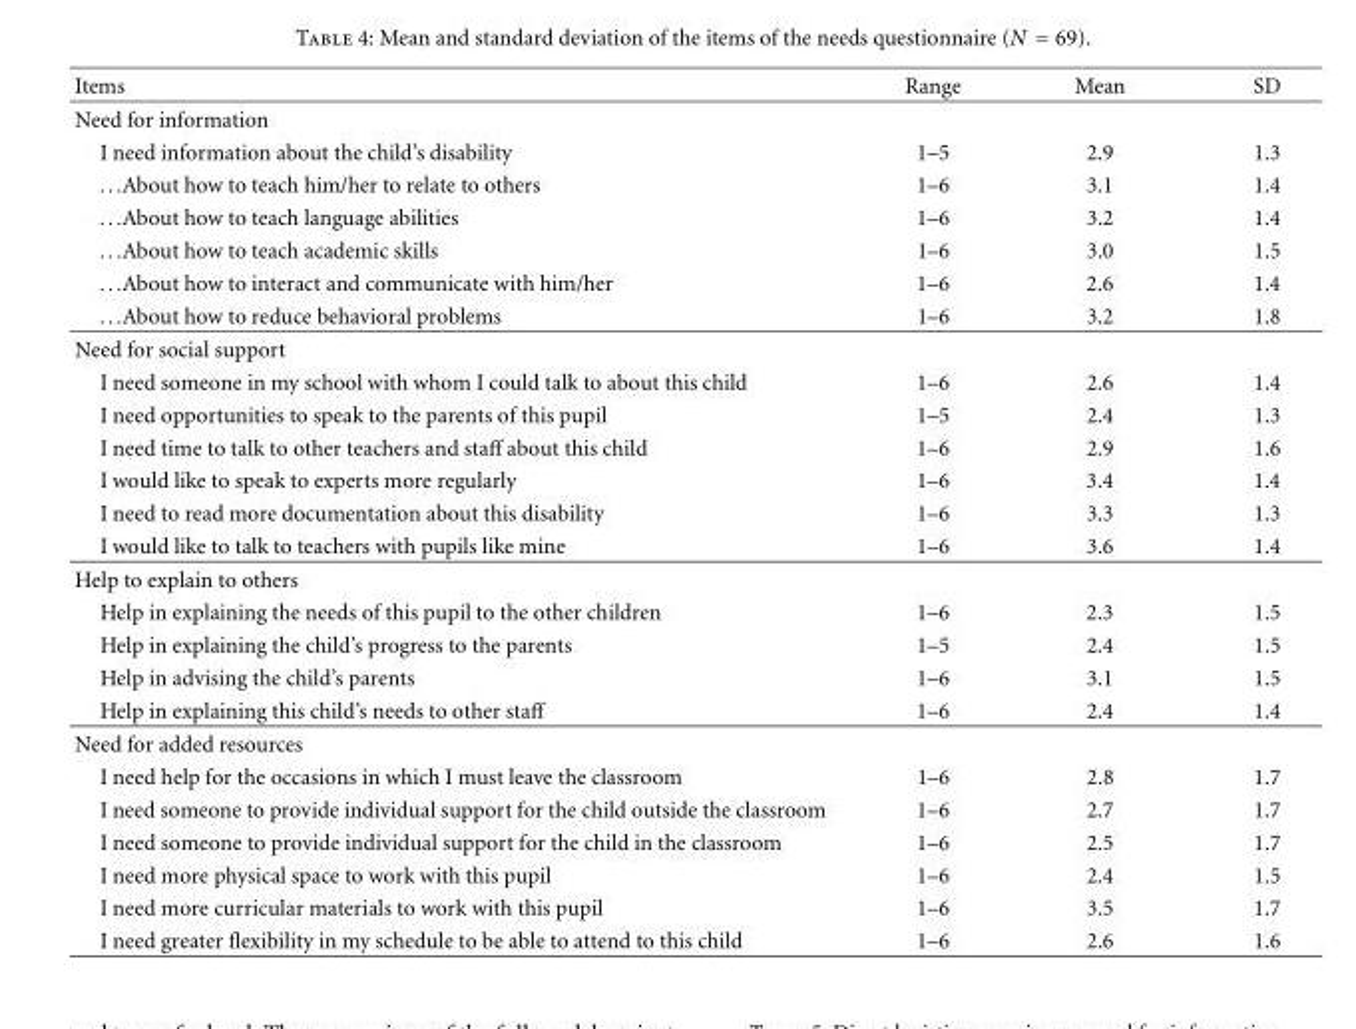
<table><thead><tr><td>Items</td><td>Range</td><td>Mean</td><td>SD</td></tr></thead><tbody><tr><td colspan="4">Need for information</td></tr><tr><td>I need information about the child’s disability</td><td>1–5</td><td>2.9</td><td>1.3</td></tr><tr><td>...About how to teach him/her to relate to others</td><td>1–6</td><td>3.1</td><td>1.4</td></tr><tr><td>...About how to teach language abilities</td><td>1–6</td><td>3.2</td><td>1.4</td></tr><tr><td>...About how to teach academic skills</td><td>1–6</td><td>3.0</td><td>1.5</td></tr><tr><td>...About how to interact and communicate with him/her</td><td>1–6</td><td>2.6</td><td>1.4</td></tr><tr><td>...About how to reduce behavioral problems</td><td>1–6</td><td>3.2</td><td>1.8</td></tr><tr><td colspan="4">Need for social support</td></tr><tr><td>I need someone in my school with whom I could talk to about this child</td><td>1–6</td><td>2.6</td><td>1.4</td></tr><tr><td>I need opportunities to speak to the parents of this pupil</td><td>1–5</td><td>2.4</td><td>1.3</td></tr><tr><td>I need time to talk to other teachers and staff about this child</td><td>1–6</td><td>2.9</td><td>1.6</td></tr><tr><td>I would like to speak to experts more regularly</td><td>1–6</td><td>3.4</td><td>1.4</td></tr><tr><td>I need to read more documentation about this disability</td><td>1–6</td><td>3.3</td><td>1.3</td></tr><tr><td>I would like to talk to teachers with pupils like mine</td><td>1–6</td><td>3.6</td><td>1.4</td></tr><tr><td colspan="4">Help to explain to others</td></tr><tr><td>Help in explaining the needs of this pupil to the other children</td><td>1–6</td><td>2.3</td><td>1.5</td></tr><tr><td>Help in explaining the child’s progress to the parents</td><td>1–5</td><td>2.4</td><td>1.5</td></tr><tr><td>Help in advising the child’s parents</td><td>1–6</td><td>3.1</td><td>1.5</td></tr><tr><td>Help in explaining this child’s needs to other staff</td><td>1–6</td><td>2.4</td><td>1.4</td></tr><tr><td colspan="4">Need for added resources</td></tr><tr><td>I need help for the occasions in which I must leave the classroom</td><td>1–6</td><td>2.8</td><td>1.7</td></tr><tr><td>I need someone to provide individual support for the child outside the classroom</td><td>1–6</td><td>2.7</td><td>1.7</td></tr><tr><td>I need someone to provide individual support for the child in the classroom</td><td>1–6</td><td>2.5</td><td>1.7</td></tr><tr><td>I need more physical space to work with this pupil</td><td>1–6</td><td>2.4</td><td>1.5</td></tr><tr><td>I need more curricular materials to work with this pupil</td><td>1–6</td><td>3.5</td><td>1.7</td></tr><tr><td>I need greater flexibility in my schedule to be able to attend to this child</td><td>1–6</td><td>2.6</td><td>1.6</td></tr></tbody></table>